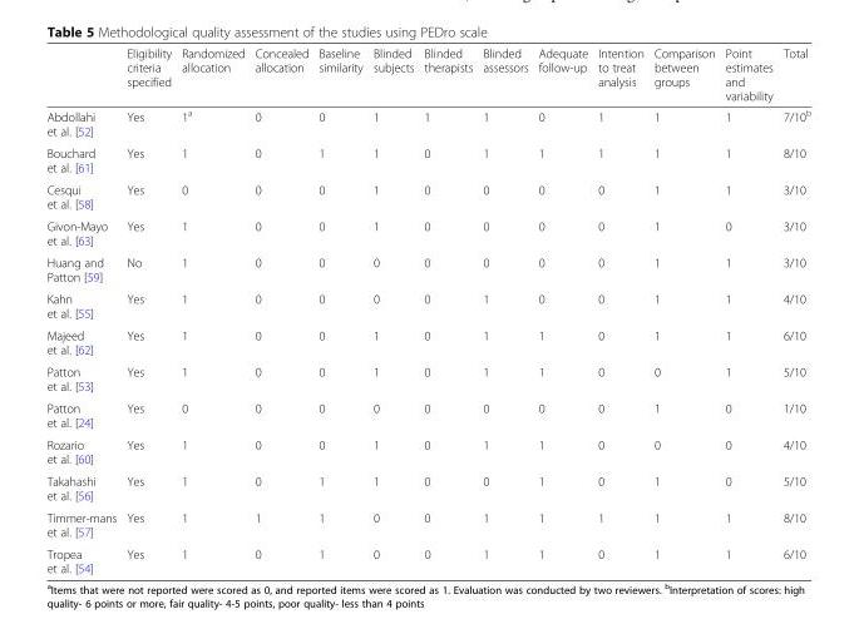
<table><thead><tr><td></td><td>Eligibility criteria specified</td><td>Randomized allocation</td><td>Concealed allocation</td><td>Baseline similarity</td><td>Blinded subjects</td><td>Blinded therapists</td><td>Blinded assessors</td><td>Adequate follow-up</td><td>Intention to treat analysis</td><td>Comparison between groups</td><td>Point estimates and variability</td><td>Total</td></tr></thead><tbody><tr><td>Abdollahi et al. [52]</td><td>Yes</td><td>1<sup>a</sup></td><td>0</td><td>0</td><td>1</td><td>1</td><td>1</td><td>0</td><td>1</td><td>1</td><td>1</td><td>7/10<sup>b</sup></td></tr><tr><td>Bouchard et al. [61]</td><td>Yes</td><td>1</td><td>0</td><td>1</td><td>1</td><td>0</td><td>1</td><td>1</td><td>1</td><td>1</td><td>1</td><td>8/10</td></tr><tr><td>Cesqui et al. [58]</td><td>Yes</td><td>0</td><td>0</td><td>0</td><td>1</td><td>0</td><td>0</td><td>0</td><td>0</td><td>1</td><td>1</td><td>3/10</td></tr><tr><td>Givon-Mayo et al. [63]</td><td>Yes</td><td>1</td><td>0</td><td>0</td><td>1</td><td>0</td><td>0</td><td>0</td><td>0</td><td>1</td><td>0</td><td>3/10</td></tr><tr><td>Huang and Patton [59]</td><td>No</td><td>1</td><td>0</td><td>0</td><td>0</td><td>0</td><td>0</td><td>0</td><td>0</td><td>1</td><td>1</td><td>3/10</td></tr><tr><td>Kahn et al. [55]</td><td>Yes</td><td>1</td><td>0</td><td>0</td><td>0</td><td>0</td><td>1</td><td>0</td><td>0</td><td>1</td><td>1</td><td>4/10</td></tr><tr><td>Majeed et al. [62]</td><td>Yes</td><td>1</td><td>0</td><td>0</td><td>1</td><td>0</td><td>1</td><td>1</td><td>0</td><td>1</td><td>1</td><td>6/10</td></tr><tr><td>Patton et al. [53]</td><td>Yes</td><td>1</td><td>0</td><td>0</td><td>1</td><td>0</td><td>1</td><td>1</td><td>0</td><td>0</td><td>1</td><td>5/10</td></tr><tr><td>Patton et al. [24]</td><td>Yes</td><td>0</td><td>0</td><td>0</td><td>0</td><td>0</td><td>0</td><td>0</td><td>0</td><td>1</td><td>0</td><td>1/10</td></tr><tr><td>Rozario et al. [60]</td><td>Yes</td><td>1</td><td>0</td><td>0</td><td>1</td><td>0</td><td>1</td><td>1</td><td>0</td><td>0</td><td>0</td><td>4/10</td></tr><tr><td>Takahashi et al. [56]</td><td>Yes</td><td>1</td><td>0</td><td>1</td><td>1</td><td>0</td><td>0</td><td>1</td><td>0</td><td>1</td><td>0</td><td>5/10</td></tr><tr><td>Timmer-mans et al. [57]</td><td>Yes</td><td>1</td><td>1</td><td>1</td><td>0</td><td>0</td><td>1</td><td>1</td><td>1</td><td>1</td><td>1</td><td>8/10</td></tr><tr><td>Tropea et al. [54]</td><td>Yes</td><td>1</td><td>0</td><td>1</td><td>0</td><td>0</td><td>1</td><td>1</td><td>0</td><td>1</td><td>1</td><td>6/10</td></tr></tbody></table>